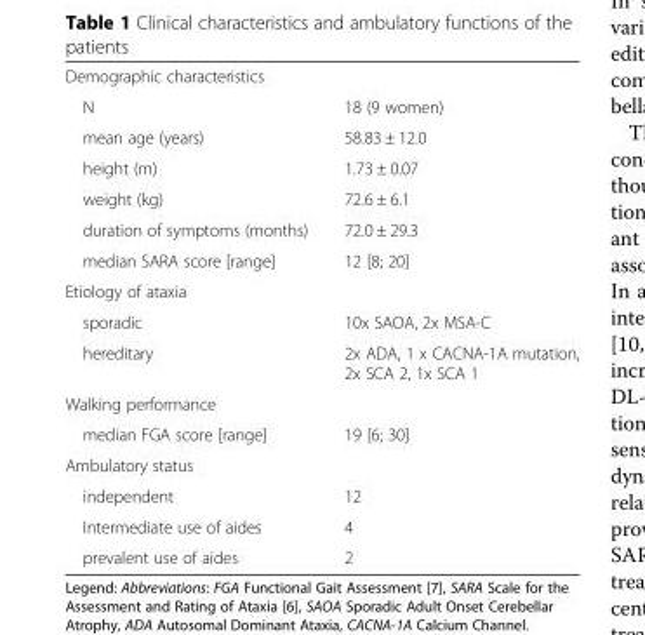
<table><tbody><tr><td colspan="2">Demographic characteristics</td></tr><tr><td>N</td><td>18 (9 women)</td></tr><tr><td>mean age (years)</td><td>58.83 ± 12.0</td></tr><tr><td>height (m)</td><td>1.73 ± 0.07</td></tr><tr><td>weight (kg)</td><td>72.6 ± 6.1</td></tr><tr><td>duration of symptoms (months)</td><td>72.0 ± 29.3</td></tr><tr><td>median SARA score [range]</td><td>12 [8; 20]</td></tr><tr><td colspan="2">Etiology of ataxia</td></tr><tr><td>sporadic</td><td>10x SAOA, 2x MSA-C</td></tr><tr><td>hereditary</td><td>2x ADA, 1 x CACNA-1A mutation, 2x SCA 2, 1x SCA 1</td></tr><tr><td colspan="2">Walking performance</td></tr><tr><td>median FGA score [range]</td><td>19 [6; 30]</td></tr><tr><td colspan="2">Ambulatory status</td></tr><tr><td>independent</td><td>12</td></tr><tr><td>Intermediate use of aides</td><td>4</td></tr><tr><td>prevalent use of aides</td><td>2</td></tr></tbody></table>